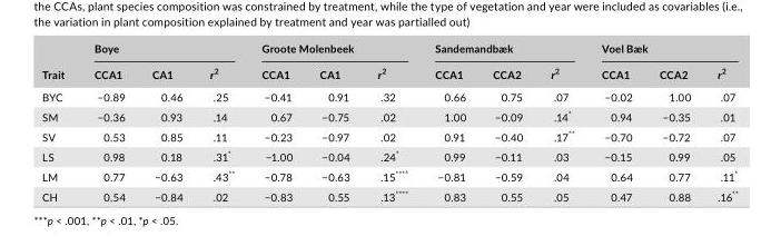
<table><thead><tr><td rowspan="2">Trait</td><td colspan="3">Boye</td><td colspan="3">Groote Molenbeek</td><td colspan="3">Sandemandbæk</td><td colspan="3">Voel Bæk</td></tr><tr><td>CCA1</td><td>CA1</td><td>r<sup>2</sup></td><td>CCA1</td><td>CA1</td><td>r<sup>2</sup></td><td>CCA1</td><td>CCA2</td><td>r<sup>2</sup></td><td>CCA1</td><td>CCA2</td><td>r<sup>2</sup></td></tr></thead><tbody><tr><td>BYC</td><td>−0.89</td><td>0.46</td><td>.25</td><td>−0.41</td><td>0.91</td><td>.32</td><td>0.66</td><td>0.75</td><td>.07</td><td>−0.02</td><td>1.00</td><td>.07</td></tr><tr><td>SM</td><td>−0.36</td><td>0.93</td><td>.14</td><td>0.67</td><td>−0.75</td><td>.02</td><td>1.00</td><td>−0.09</td><td>.14*</td><td>0.94</td><td>−0.35</td><td>.01</td></tr><tr><td>SV</td><td>0.53</td><td>0.85</td><td>.11</td><td>−0.23</td><td>−0.97</td><td>.02</td><td>0.91</td><td>−0.40</td><td>.17**</td><td>−0.70</td><td>−0.72</td><td>.07</td></tr><tr><td>LS</td><td>0.98</td><td>0.18</td><td>.31*</td><td>−1.00</td><td>−0.04</td><td>.24*</td><td>0.99</td><td>−0.11</td><td>.03</td><td>−0.15</td><td>0.99</td><td>.05</td></tr><tr><td>LM</td><td>0.77</td><td>−0.63</td><td>.43**</td><td>−0.78</td><td>−0.63</td><td>.15****</td><td>−0.81</td><td>−0.59</td><td>.04</td><td>0.64</td><td>0.77</td><td>.11*</td></tr><tr><td>CH</td><td>0.54</td><td>−0.84</td><td>.02</td><td>−0.83</td><td>0.55</td><td>.13****</td><td>0.83</td><td>0.55</td><td>.05</td><td>0.47</td><td>0.88</td><td>.16**</td></tr></tbody></table>